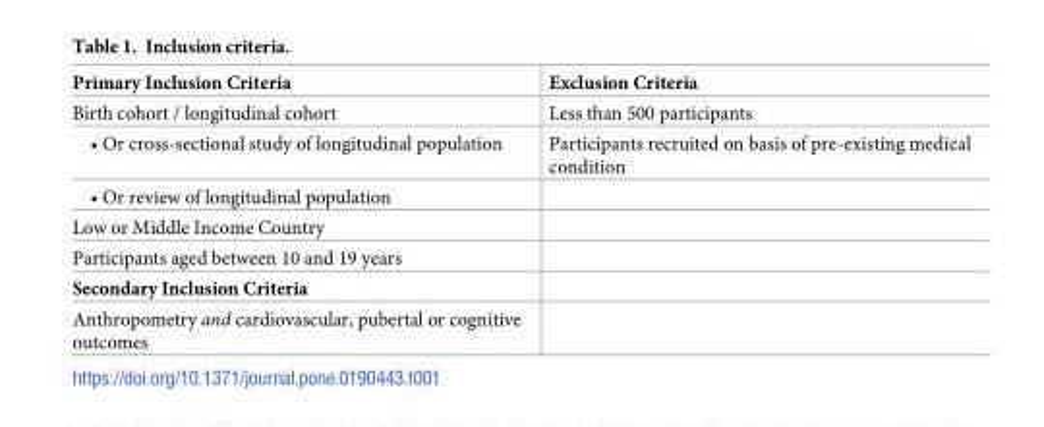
<table><tbody><tr><td>Primary Inclusion Criteria</td><td>Exclusion Criteria</td></tr><tr><td>Birth cohort / longitudinal cohort</td><td>Less than 500 participants</td></tr><tr><td>• Or cross-sectional study of longitudinal population</td><td>Participants recruited on basis of pre-existing medical condition</td></tr><tr><td colspan="2">• Or review of longitudinal population</td></tr><tr><td colspan="2">Low or Middle Income Country</td></tr><tr><td colspan="2">Participants aged between 10 and 19 years</td></tr><tr><td colspan="2">Secondary Inclusion Criteria</td></tr><tr><td>Anthropometry and cardiovascular, pubertal or cognitive outcomes</td><td></td></tr></tbody></table>